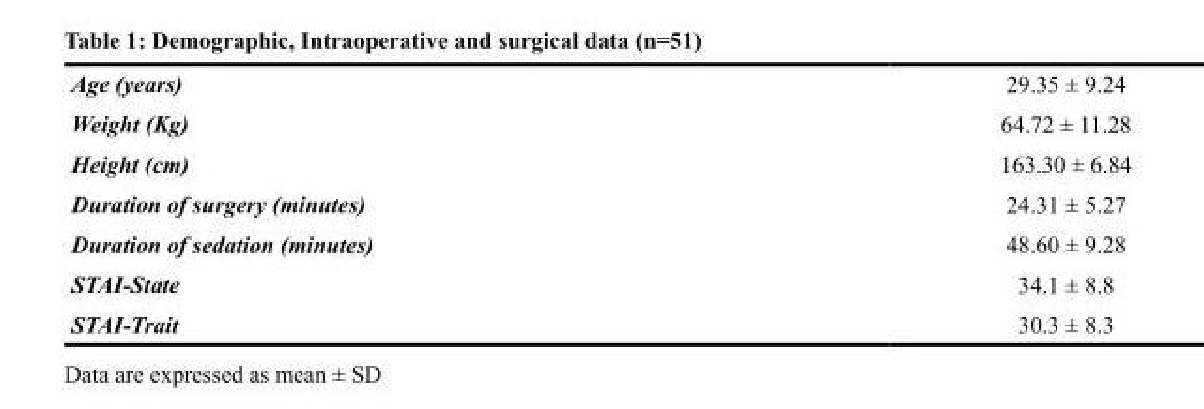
<table><tbody><tr><td>Age (years)</td><td>29.35 ± 9.24</td></tr><tr><td>Weight (Kg)</td><td>64.72 ± 11.28</td></tr><tr><td>Height (cm)</td><td>163.30 ± 6.84</td></tr><tr><td>Duration of surgery (minutes)</td><td>24.31 ± 5.27</td></tr><tr><td>Duration of sedation (minutes)</td><td>48.60 ± 9.28</td></tr><tr><td>STAI-State</td><td>34.1 ± 8.8</td></tr><tr><td>STAI-Trait</td><td>30.3 ± 8.3</td></tr></tbody></table>